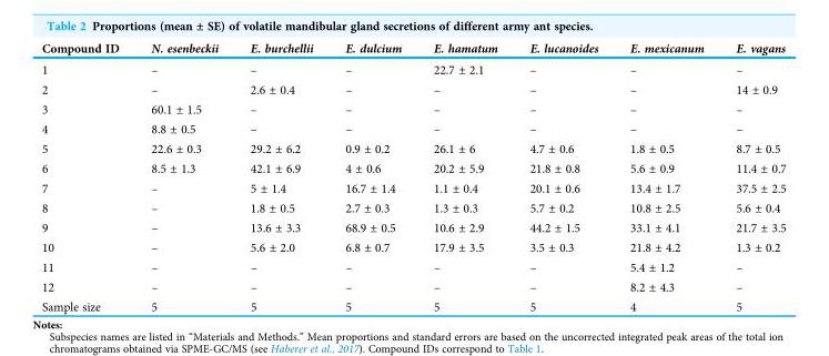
<table><thead><tr><td>Compound ID</td><td>N. esenbeckii</td><td>E. burchellii</td><td>E. dulcium</td><td>E. hamatum</td><td>E. lucanoides</td><td>E. mexicanum</td><td>E. vagans</td></tr></thead><tbody><tr><td>1</td><td>–</td><td>–</td><td>–</td><td>22.7 ± 2.1</td><td>–</td><td>–</td><td>–</td></tr><tr><td>2</td><td>–</td><td>2.6 ± 0.4</td><td>–</td><td>–</td><td>–</td><td>–</td><td>14 ± 0.9</td></tr><tr><td>3</td><td>60.1 ± 1.5</td><td>–</td><td>–</td><td>–</td><td>–</td><td>–</td><td>–</td></tr><tr><td>4</td><td>8.8 ± 0.5</td><td>–</td><td>–</td><td>–</td><td>–</td><td>–</td><td>–</td></tr><tr><td>5</td><td>22.6 ± 0.3</td><td>29.2 ± 6.2</td><td>0.9 ± 0.2</td><td>26.1 ± 6</td><td>4.7 ± 0.6</td><td>1.8 ± 0.5</td><td>8.7 ± 0.5</td></tr><tr><td>6</td><td>8.5 ± 1.3</td><td>42.1 ± 6.9</td><td>4 ± 0.6</td><td>20.2 ± 5.9</td><td>21.8 ± 0.8</td><td>5.6 ± 0.9</td><td>11.4 ± 0.7</td></tr><tr><td>7</td><td>–</td><td>5 ± 1.4</td><td>16.7 ± 1.4</td><td>1.1 ± 0.4</td><td>20.1 ± 0.6</td><td>13.4 ± 1.7</td><td>37.5 ± 2.5</td></tr><tr><td>8</td><td>–</td><td>1.8 ± 0.5</td><td>2.7 ± 0.3</td><td>1.3 ± 0.3</td><td>5.7 ± 0.2</td><td>10.8 ± 2.5</td><td>5.6 ± 0.4</td></tr><tr><td>9</td><td>–</td><td>13.6 ± 3.3</td><td>68.9 ± 0.5</td><td>10.6 ± 2.9</td><td>44.2 ± 1.5</td><td>33.1 ± 4.1</td><td>21.7 ± 3.5</td></tr><tr><td>10</td><td>–</td><td>5.6 ± 2.0</td><td>6.8 ± 0.7</td><td>17.9 ± 3.5</td><td>3.5 ± 0.3</td><td>21.8 ± 4.2</td><td>1.3 ± 0.2</td></tr><tr><td>11</td><td>–</td><td>–</td><td>–</td><td>–</td><td>–</td><td>5.4 ± 1.2</td><td>–</td></tr><tr><td>12</td><td>–</td><td>–</td><td>–</td><td>–</td><td>–</td><td>8.2 ± 4.3</td><td>–</td></tr><tr><td>Sample size</td><td>5</td><td>5</td><td>5</td><td>5</td><td>5</td><td>4</td><td>5</td></tr></tbody></table>